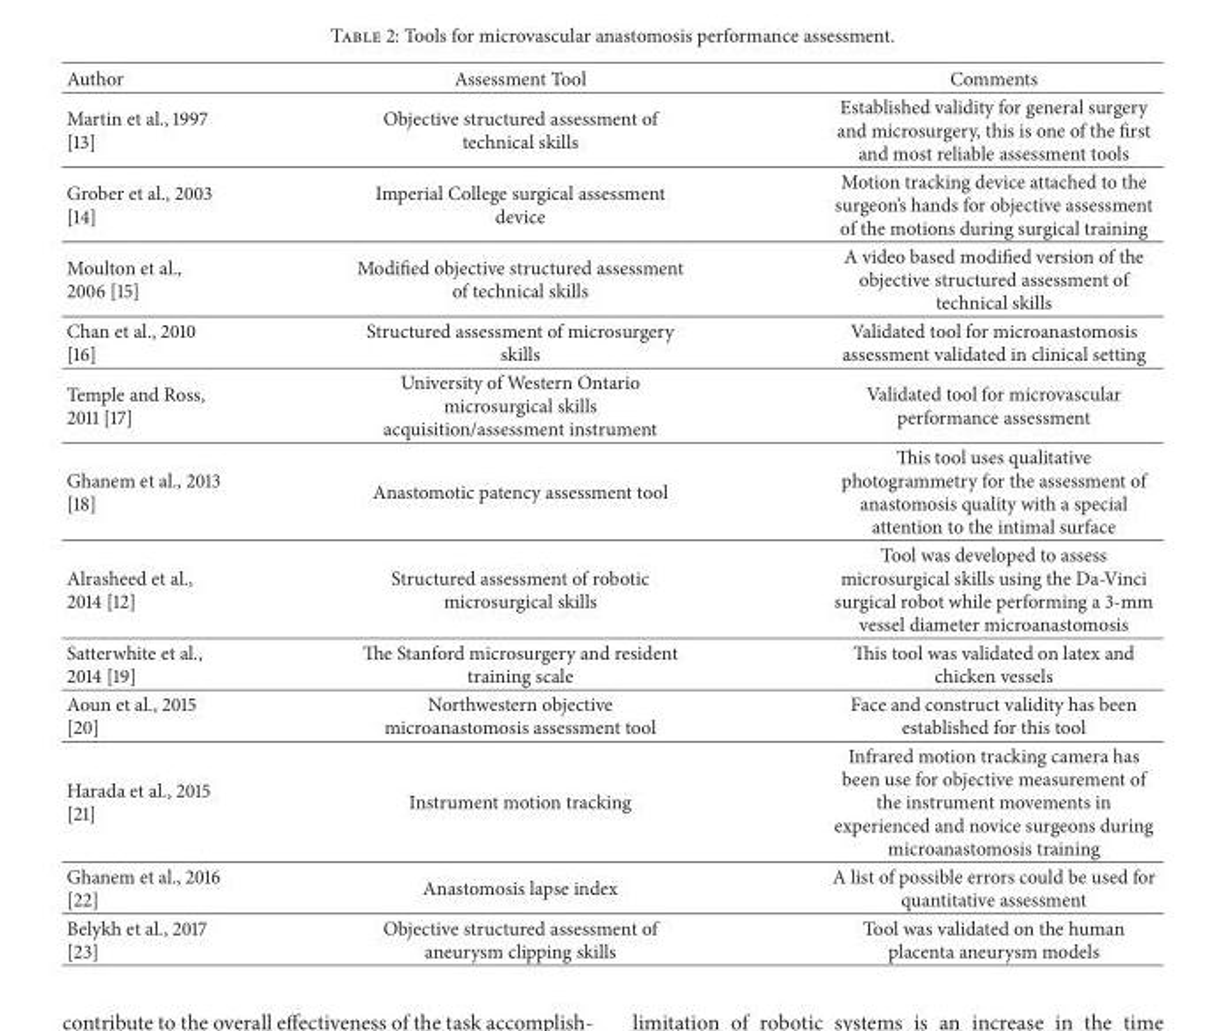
<table><thead><tr><td>Author</td><td>Assessment Tool</td><td>Comments</td></tr></thead><tbody><tr><td>Martin et al., 1997 [13]</td><td>Objective structured assessment of technical skills</td><td>Established validity for general surgery and microsurgery, this is one of the first and most reliable assessment tools</td></tr><tr><td>Grober et al., 2003 [14]</td><td>Imperial College surgical assessment device</td><td>Motion tracking device attached to the surgeon’s hands for objective assessment of the motions during surgical training</td></tr><tr><td>Moulton et al., 2006 [15]</td><td>Modified objective structured assessment of technical skills</td><td>A video based modified version of the objective structured assessment of technical skills</td></tr><tr><td>Chan et al., 2010 [16]</td><td>Structured assessment of microsurgery skills</td><td>Validated tool for microanastomosis assessment validated in clinical setting</td></tr><tr><td>Temple and Ross, 2011 [17]</td><td>University of Western Ontario microsurgical skills acquisition/assessment instrument</td><td>Validated tool for microvascular performance assessment</td></tr><tr><td>Ghanem et al., 2013 [18]</td><td>Anastomotic patency assessment tool</td><td>This tool uses qualitative photogrammetry for the assessment of anastomosis quality with a special attention to the intimal surface</td></tr><tr><td>Alrasheed et al., 2014 [12]</td><td>Structured assessment of robotic microsurgical skills</td><td>Tool was developed to assess microsurgical skills using the Da-Vinci surgical robot while performing a 3-mm vessel diameter microanastomosis</td></tr><tr><td>Satterwhite et al., 2014 [19]</td><td>The Stanford microsurgery and resident training scale</td><td>This tool was validated on latex and chicken vessels</td></tr><tr><td>Aoun et al., 2015 [20]</td><td>Northwestern objective microanastomosis assessment tool</td><td>Face and construct validity has been established for this tool</td></tr><tr><td>Harada et al., 2015 [21]</td><td>Instrument motion tracking</td><td>Infrared motion tracking camera has been use for objective measurement of the instrument movements in experienced and novice surgeons during microanastomosis training</td></tr><tr><td>Ghanem et al., 2016 [22]</td><td>Anastomosis lapse index</td><td>A list of possible errors could be used for quantitative assessment</td></tr><tr><td>Belykh et al., 2017 [23]</td><td>Objective structured assessment of aneurysm clipping skills</td><td>Tool was validated on the human placenta aneurysm models</td></tr></tbody></table>